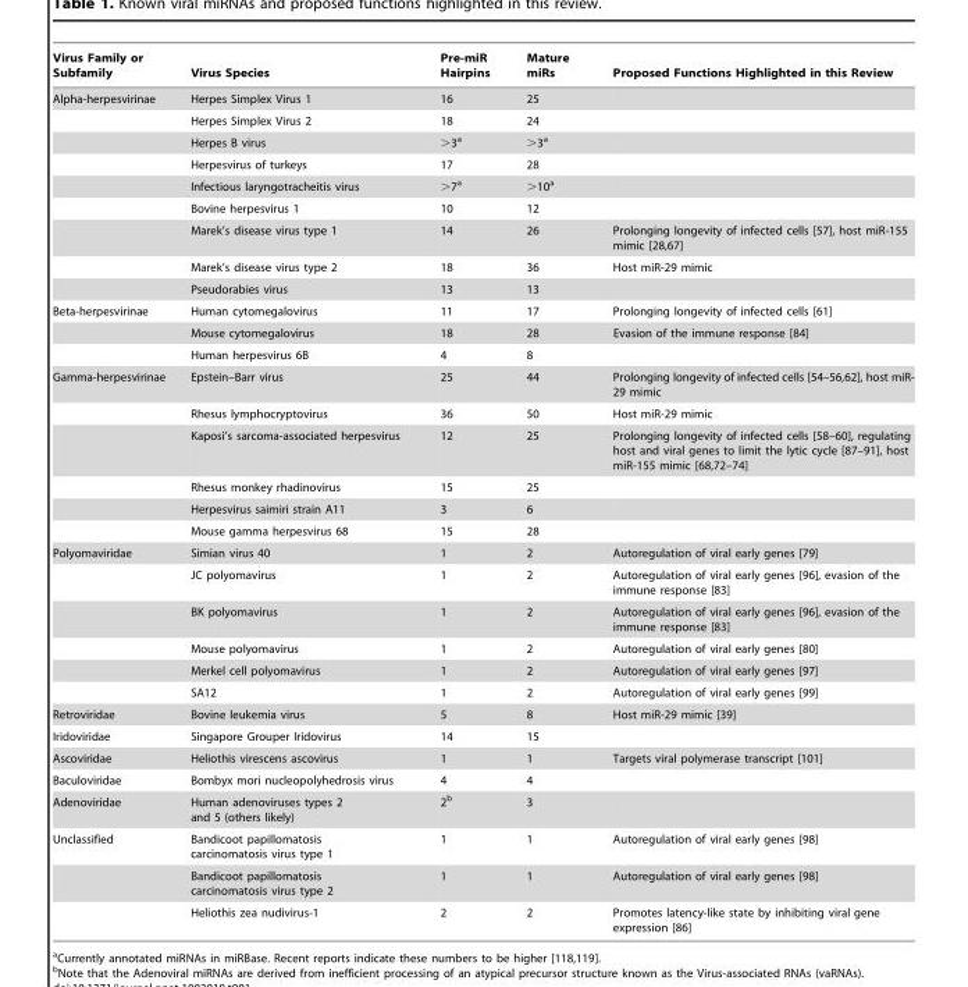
<table><thead><tr><td>Virus Family or Subfamily</td><td>Virus Species</td><td>Pre-miR Hairpins</td><td>Mature miRs</td><td>Proposed Functions Highlighted in this Review</td></tr></thead><tbody><tr><td rowspan="9">Alpha-herpesvirinae</td><td>Herpes Simplex Virus 1</td><td>16</td><td>25</td><td></td></tr><tr><td>Herpes Simplex Virus 2</td><td>18</td><td>24</td><td></td></tr><tr><td>Herpes B virus</td><td>&gt;3<sup>a</sup></td><td>&gt;3<sup>a</sup></td><td></td></tr><tr><td>Herpesvirus of turkeys</td><td>17</td><td>28</td><td></td></tr><tr><td>Infectious laryngotracheitis virus</td><td>&gt;7<sup>a</sup></td><td>&gt;10<sup>a</sup></td><td></td></tr><tr><td>Bovine herpesvirus 1</td><td>10</td><td>12</td><td></td></tr><tr><td>Marek’s disease virus type 1</td><td>14</td><td>26</td><td>Prolonging longevity of infected cells [57], host miR-155 mimic [28,67]</td></tr><tr><td>Marek’s disease virus type 2</td><td>18</td><td>36</td><td>Host miR-29 mimic</td></tr><tr><td>Pseudorabies virus</td><td>13</td><td>13</td><td></td></tr><tr><td rowspan="3">Beta-herpesvirinae</td><td>Human cytomegalovirus</td><td>11</td><td>17</td><td>Prolonging longevity of infected cells [61]</td></tr><tr><td>Mouse cytomegalovirus</td><td>18</td><td>28</td><td>Evasion of the immune response [84]</td></tr><tr><td>Human herpesvirus 6B</td><td>4</td><td>8</td><td></td></tr><tr><td rowspan="6">Gamma-herpesvirinae</td><td>Epstein–Barr virus</td><td>25</td><td>44</td><td>Prolonging longevity of infected cells [54–56,62], host miR- 29 mimic</td></tr><tr><td>Rhesus lymphocryptovirus</td><td>36</td><td>50</td><td>Host miR-29 mimic</td></tr><tr><td>Kaposi’s sarcoma-associated herpesvirus</td><td>12</td><td>25</td><td>Prolonging longevity of infected cells [58–60], regulating host and viral genes to limit the lytic cycle [87–91], host miR-155 mimic [68,72–74]</td></tr><tr><td>Rhesus monkey rhadinovirus</td><td>15</td><td>25</td><td></td></tr><tr><td>Herpesvirus saimiri strain A11</td><td>3</td><td>6</td><td></td></tr><tr><td>Mouse gamma herpesvirus 68</td><td>15</td><td>28</td><td></td></tr><tr><td rowspan="6">Polyomaviridae</td><td>Simian virus 40</td><td>1</td><td>2</td><td>Autoregulation of viral early genes [79]</td></tr><tr><td>JC polyomavirus</td><td>1</td><td>2</td><td>Autoregulation of viral early genes [96], evasion of the immune response [83]</td></tr><tr><td>BK polyomavirus</td><td>1</td><td>2</td><td>Autoregulation of viral early genes [96], evasion of the immune response [83]</td></tr><tr><td>Mouse polyomavirus</td><td>1</td><td>2</td><td>Autoregulation of viral early genes [80]</td></tr><tr><td>Merkel cell polyomavirus</td><td>1</td><td>2</td><td>Autoregulation of viral early genes [97]</td></tr><tr><td>SA12</td><td>1</td><td>2</td><td>Autoregulation of viral early genes [99]</td></tr><tr><td>Retroviridae</td><td>Bovine leukemia virus</td><td>5</td><td>8</td><td>Host miR-29 mimic [39]</td></tr><tr><td>Iridoviridae</td><td>Singapore Grouper Iridovirus</td><td>14</td><td>15</td><td></td></tr><tr><td>Ascoviridae</td><td>Heliothis virescens ascovirus</td><td>1</td><td>1</td><td>Targets viral polymerase transcript [101]</td></tr><tr><td>Baculoviridae</td><td>Bombyx mori nucleopolyhedrosis virus</td><td>4</td><td>4</td><td></td></tr><tr><td>Adenoviridae</td><td>Human adenoviruses types 2 and 5 (others likely)</td><td>2<sup>b</sup></td><td>3</td><td></td></tr><tr><td rowspan="3">Unclassified</td><td>Bandicoot papillomatosis carcinomatosis virus type 1</td><td>1</td><td>1</td><td>Autoregulation of viral early genes [98]</td></tr><tr><td>Bandicoot papillomatosis carcinomatosis virus type 2</td><td>1</td><td>1</td><td>Autoregulation of viral early genes [98]</td></tr><tr><td>Heliothis zea nudivirus-1</td><td>2</td><td>2</td><td>Promotes latency-like state by inhibiting viral gene expression [86]</td></tr></tbody></table>